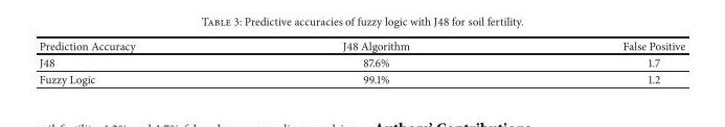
<table><thead><tr><td>Prediction Accuracy</td><td>J48 Algorithm</td><td>False Positive</td></tr></thead><tbody><tr><td>J48</td><td>87.6%</td><td>1.7</td></tr><tr><td>Fuzzy Logic</td><td>99.1%</td><td>1.2</td></tr></tbody></table>